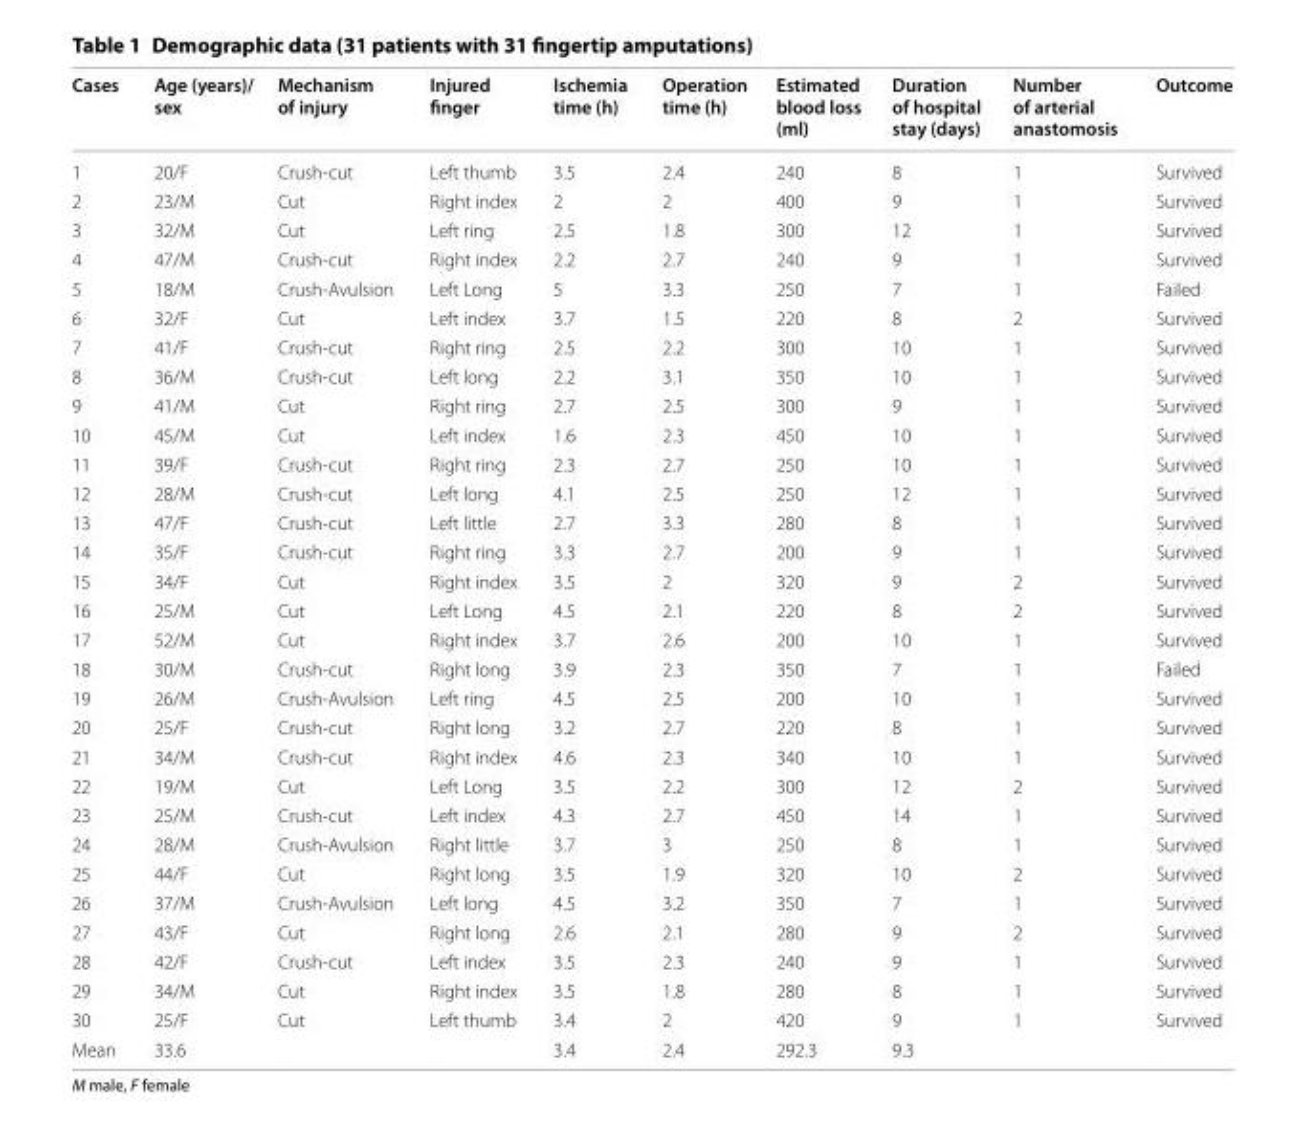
<table><thead><tr><td>Cases</td><td>Age (years)/ sex</td><td>Mechanism of injury</td><td>Injured finger</td><td>Ischemia time (h)</td><td>Operation time (h)</td><td>Estimated blood loss (ml)</td><td>Duration of hospital stay (days)</td><td>Number of arterial anastomosis</td><td>Outcome</td></tr></thead><tbody><tr><td>1</td><td>20/F</td><td>Crush‑cut</td><td>Left thumb</td><td>3.5</td><td>2.4</td><td>240</td><td>8</td><td>1</td><td>Survived</td></tr><tr><td>2</td><td>23/M</td><td>Cut</td><td>Right index</td><td>2</td><td>2</td><td>400</td><td>9</td><td>1</td><td>Survived</td></tr><tr><td>3</td><td>32/M</td><td>Cut</td><td>Left ring</td><td>2.5</td><td>1.8</td><td>300</td><td>12</td><td>1</td><td>Survived</td></tr><tr><td>4</td><td>47/M</td><td>Crush‑cut</td><td>Right index</td><td>2.2</td><td>2.7</td><td>240</td><td>9</td><td>1</td><td>Survived</td></tr><tr><td>5</td><td>18/M</td><td>Crush‑Avulsion</td><td>Left Long</td><td>5</td><td>3.3</td><td>250</td><td>7</td><td>1</td><td>Failed</td></tr><tr><td>6</td><td>32/F</td><td>Cut</td><td>Left index</td><td>3.7</td><td>1.5</td><td>220</td><td>8</td><td>2</td><td>Survived</td></tr><tr><td>7</td><td>41/F</td><td>Crush‑cut</td><td>Right ring</td><td>2.5</td><td>2.2</td><td>300</td><td>10</td><td>1</td><td>Survived</td></tr><tr><td>8</td><td>36/M</td><td>Crush‑cut</td><td>Left long</td><td>2.2</td><td>3.1</td><td>350</td><td>10</td><td>1</td><td>Survived</td></tr><tr><td>9</td><td>41/M</td><td>Cut</td><td>Right ring</td><td>2.7</td><td>2.5</td><td>300</td><td>9</td><td>1</td><td>Survived</td></tr><tr><td>10</td><td>45/M</td><td>Cut</td><td>Left index</td><td>1.6</td><td>2.3</td><td>450</td><td>10</td><td>1</td><td>Survived</td></tr><tr><td>11</td><td>39/F</td><td>Crush‑cut</td><td>Right ring</td><td>2.3</td><td>2.7</td><td>250</td><td>10</td><td>1</td><td>Survived</td></tr><tr><td>12</td><td>28/M</td><td>Crush‑cut</td><td>Left long</td><td>4.1</td><td>2.5</td><td>250</td><td>12</td><td>1</td><td>Survived</td></tr><tr><td>13</td><td>47/F</td><td>Crush‑cut</td><td>Left little</td><td>2.7</td><td>3.3</td><td>280</td><td>8</td><td>1</td><td>Survived</td></tr><tr><td>14</td><td>35/F</td><td>Crush‑cut</td><td>Right ring</td><td>3.3</td><td>2.7</td><td>200</td><td>9</td><td>1</td><td>Survived</td></tr><tr><td>15</td><td>34/F</td><td>Cut</td><td>Right index</td><td>3.5</td><td>2</td><td>320</td><td>9</td><td>2</td><td>Survived</td></tr><tr><td>16</td><td>25/M</td><td>Cut</td><td>Left Long</td><td>4.5</td><td>2.1</td><td>220</td><td>8</td><td>2</td><td>Survived</td></tr><tr><td>17</td><td>52/M</td><td>Cut</td><td>Right index</td><td>3.7</td><td>2.6</td><td>200</td><td>10</td><td>1</td><td>Survived</td></tr><tr><td>18</td><td>30/M</td><td>Crush‑cut</td><td>Right long</td><td>3.9</td><td>2.3</td><td>350</td><td>7</td><td>1</td><td>Failed</td></tr><tr><td>19</td><td>26/M</td><td>Crush‑Avulsion</td><td>Left ring</td><td>4.5</td><td>2.5</td><td>200</td><td>10</td><td>1</td><td>Survived</td></tr><tr><td>20</td><td>25/F</td><td>Crush‑cut</td><td>Right long</td><td>3.2</td><td>2.7</td><td>220</td><td>8</td><td>1</td><td>Survived</td></tr><tr><td>21</td><td>34/M</td><td>Crush‑cut</td><td>Right index</td><td>4.6</td><td>2.3</td><td>340</td><td>10</td><td>1</td><td>Survived</td></tr><tr><td>22</td><td>19/M</td><td>Cut</td><td>Left Long</td><td>3.5</td><td>2.2</td><td>300</td><td>12</td><td>2</td><td>Survived</td></tr><tr><td>23</td><td>25/M</td><td>Crush‑cut</td><td>Left index</td><td>4.3</td><td>2.7</td><td>450</td><td>14</td><td>1</td><td>Survived</td></tr><tr><td>24</td><td>28/M</td><td>Crush‑Avulsion</td><td>Right little</td><td>3.7</td><td>3</td><td>250</td><td>8</td><td>1</td><td>Survived</td></tr><tr><td>25</td><td>44/F</td><td>Cut</td><td>Right long</td><td>3.5</td><td>1.9</td><td>320</td><td>10</td><td>2</td><td>Survived</td></tr><tr><td>26</td><td>37/M</td><td>Crush‑Avulsion</td><td>Left long</td><td>4.5</td><td>3.2</td><td>350</td><td>7</td><td>1</td><td>Survived</td></tr><tr><td>27</td><td>43/F</td><td>Cut</td><td>Right long</td><td>2.6</td><td>2.1</td><td>280</td><td>9</td><td>2</td><td>Survived</td></tr><tr><td>28</td><td>42/F</td><td>Crush‑cut</td><td>Left index</td><td>3.5</td><td>2.3</td><td>240</td><td>9</td><td>1</td><td>Survived</td></tr><tr><td>29</td><td>34/M</td><td>Cut</td><td>Right index</td><td>3.5</td><td>1.8</td><td>280</td><td>8</td><td>1</td><td>Survived</td></tr><tr><td>30</td><td>25/F</td><td>Cut</td><td>Left thumb</td><td>3.4</td><td>2</td><td>420</td><td>9</td><td>1</td><td>Survived</td></tr><tr><td>Mean</td><td>33.6</td><td></td><td></td><td>3.4</td><td>2.4</td><td>292.3</td><td>9.3</td><td></td><td></td></tr></tbody></table>